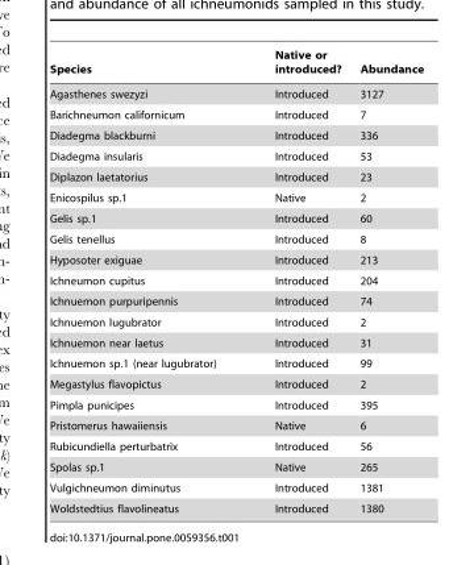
<table><thead><tr><td>Species</td><td>Native or introduced?</td><td>Abundance</td></tr></thead><tbody><tr><td>Agasthenes swezyzi</td><td>Introduced</td><td>3127</td></tr><tr><td>Barichneumon californicum</td><td>Introduced</td><td>7</td></tr><tr><td>Diadegma blackburni</td><td>Introduced</td><td>336</td></tr><tr><td>Diadegma insularis</td><td>Introduced</td><td>53</td></tr><tr><td>Diplazon laetatorius</td><td>Introduced</td><td>23</td></tr><tr><td>Enicospilus sp.1</td><td>Native</td><td>2</td></tr><tr><td>Gelis sp.1</td><td>Introduced</td><td>60</td></tr><tr><td>Gelis tenellus</td><td>Introduced</td><td>8</td></tr><tr><td>Hyposoter exiguae</td><td>Introduced</td><td>213</td></tr><tr><td>Ichneumon cupitus</td><td>Introduced</td><td>204</td></tr><tr><td>Ichnuemon purpuripennis</td><td>Introduced</td><td>74</td></tr><tr><td>Ichnuemon lugubrator</td><td>Introduced</td><td>2</td></tr><tr><td>Ichnuemon near laetus</td><td>Introduced</td><td>31</td></tr><tr><td>Ichnuemon sp.1 (near lugubrator)</td><td>Introduced</td><td>99</td></tr><tr><td>Megastylus flavopictus</td><td>Introduced</td><td>2</td></tr><tr><td>Pimpla punicipes</td><td>Introduced</td><td>395</td></tr><tr><td>Pristomerus hawaiiensis</td><td>Native</td><td>6</td></tr><tr><td>Rubicundiella perturbatrix</td><td>Introduced</td><td>56</td></tr><tr><td>Spolas sp.1</td><td>Native</td><td>265</td></tr><tr><td>Vulgichneumon diminutus</td><td>Introduced</td><td>1381</td></tr><tr><td>Woldstedtius flavolineatus</td><td>Introduced</td><td>1380</td></tr></tbody></table>